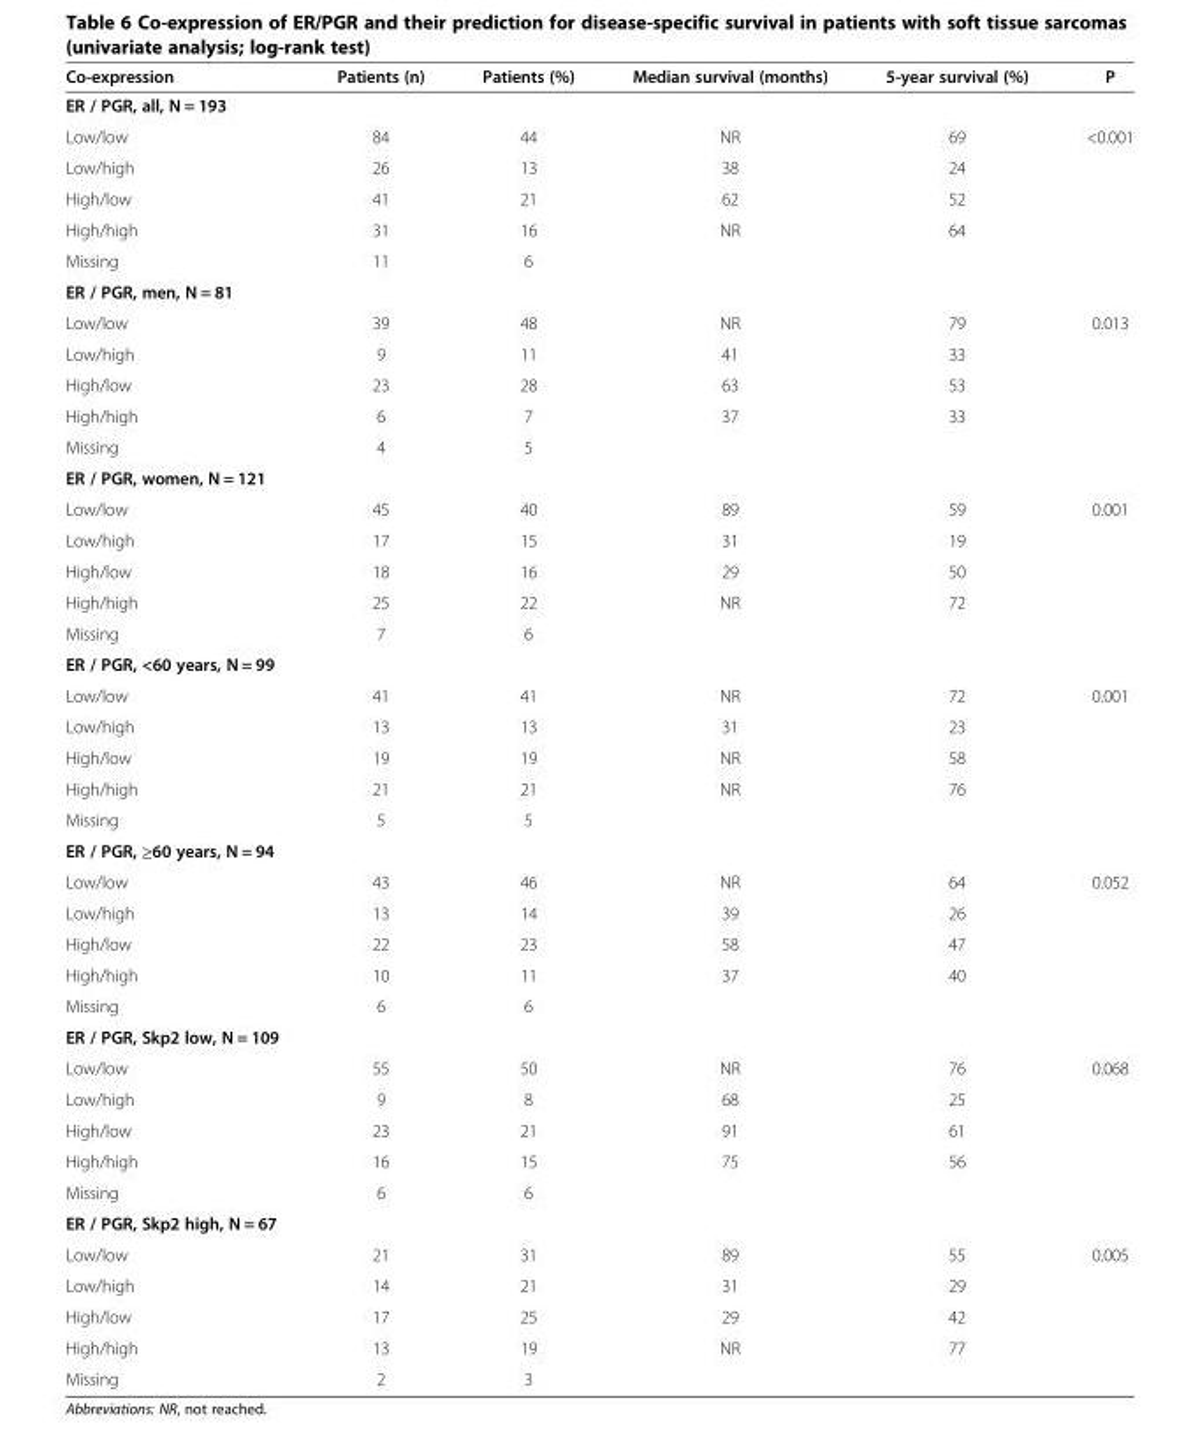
<table><thead><tr><td>Co-expression</td><td>Patients (n)</td><td>Patients (%)</td><td>Median survival (months)</td><td>5-year survival (%)</td><td>P</td></tr></thead><tbody><tr><td colspan="6">ER / PGR, all, N = 193</td></tr><tr><td>Low/low</td><td>84</td><td>44</td><td>NR</td><td>69</td><td>&lt;0.001</td></tr><tr><td>Low/high</td><td>26</td><td>13</td><td>38</td><td>24</td><td></td></tr><tr><td>High/low</td><td>41</td><td>21</td><td>62</td><td>52</td><td></td></tr><tr><td>High/high</td><td>31</td><td>16</td><td>NR</td><td>64</td><td></td></tr><tr><td>Missing</td><td>11</td><td>6</td><td></td><td></td><td></td></tr><tr><td colspan="6">ER / PGR, men, N = 81</td></tr><tr><td>Low/low</td><td>39</td><td>48</td><td>NR</td><td>79</td><td>0.013</td></tr><tr><td>Low/high</td><td>9</td><td>11</td><td>41</td><td>33</td><td></td></tr><tr><td>High/low</td><td>23</td><td>28</td><td>63</td><td>53</td><td></td></tr><tr><td>High/high</td><td>6</td><td>7</td><td>37</td><td>33</td><td></td></tr><tr><td>Missing</td><td>4</td><td>5</td><td></td><td></td><td></td></tr><tr><td colspan="6">ER / PGR, women, N = 121</td></tr><tr><td>Low/low</td><td>45</td><td>40</td><td>89</td><td>59</td><td>0.001</td></tr><tr><td>Low/high</td><td>17</td><td>15</td><td>31</td><td>19</td><td></td></tr><tr><td>High/low</td><td>18</td><td>16</td><td>29</td><td>50</td><td></td></tr><tr><td>High/high</td><td>25</td><td>22</td><td>NR</td><td>72</td><td></td></tr><tr><td>Missing</td><td>7</td><td>6</td><td></td><td></td><td></td></tr><tr><td colspan="6">ER / PGR, &lt;60 years, N = 99</td></tr><tr><td>Low/low</td><td>41</td><td>41</td><td>NR</td><td>72</td><td>0.001</td></tr><tr><td>Low/high</td><td>13</td><td>13</td><td>31</td><td>23</td><td></td></tr><tr><td>High/low</td><td>19</td><td>19</td><td>NR</td><td>58</td><td></td></tr><tr><td>High/high</td><td>21</td><td>21</td><td>NR</td><td>76</td><td></td></tr><tr><td>Missing</td><td>5</td><td>5</td><td></td><td></td><td></td></tr><tr><td colspan="6">ER / PGR, ≥60 years, N = 94</td></tr><tr><td>Low/low</td><td>43</td><td>46</td><td>NR</td><td>64</td><td>0.052</td></tr><tr><td>Low/high</td><td>13</td><td>14</td><td>39</td><td>26</td><td></td></tr><tr><td>High/low</td><td>22</td><td>23</td><td>58</td><td>47</td><td></td></tr><tr><td>High/high</td><td>10</td><td>11</td><td>37</td><td>40</td><td></td></tr><tr><td>Missing</td><td>6</td><td>6</td><td></td><td></td><td></td></tr><tr><td colspan="6">ER / PGR, Skp2 low, N = 109</td></tr><tr><td>Low/low</td><td>55</td><td>50</td><td>NR</td><td>76</td><td>0.068</td></tr><tr><td>Low/high</td><td>9</td><td>8</td><td>68</td><td>25</td><td></td></tr><tr><td>High/low</td><td>23</td><td>21</td><td>91</td><td>61</td><td></td></tr><tr><td>High/high</td><td>16</td><td>15</td><td>75</td><td>56</td><td></td></tr><tr><td>Missing</td><td>6</td><td>6</td><td></td><td></td><td></td></tr><tr><td colspan="6">ER / PGR, Skp2 high, N = 67</td></tr><tr><td>Low/low</td><td>21</td><td>31</td><td>89</td><td>55</td><td>0.005</td></tr><tr><td>Low/high</td><td>14</td><td>21</td><td>31</td><td>29</td><td></td></tr><tr><td>High/low</td><td>17</td><td>25</td><td>29</td><td>42</td><td></td></tr><tr><td>High/high</td><td>13</td><td>19</td><td>NR</td><td>77</td><td></td></tr><tr><td>Missing</td><td>2</td><td>3</td><td></td><td></td><td></td></tr></tbody></table>